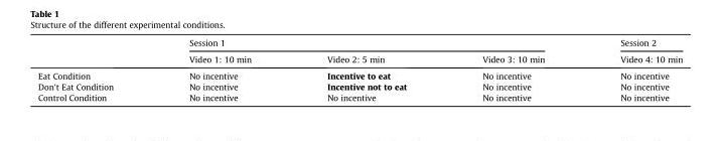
<table><thead><tr><td rowspan="2"></td><td colspan="3">Session 1</td><td rowspan="2">Session 2 Video 4: 10 min</td></tr><tr><td>Video 1: 10 min</td><td>Video 2: 5 min</td><td>Video 3: 10 min</td></tr></thead><tbody><tr><td>Eat Condition</td><td>No incentive</td><td>Incentive to eat</td><td>No incentive</td><td>No incentive</td></tr><tr><td>Don&#x27;t Eat Condition</td><td>No incentive</td><td>Incentive not to eat</td><td>No incentive</td><td>No incentive</td></tr><tr><td>Control Condition</td><td>No incentive</td><td>No incentive</td><td>No incentive</td><td>No incentive</td></tr></tbody></table>